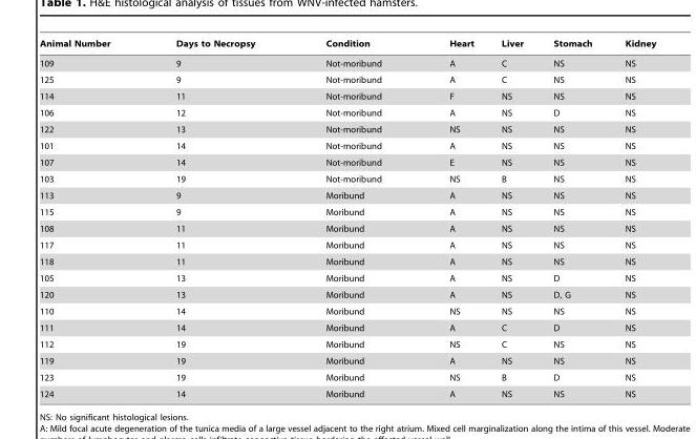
<table><thead><tr><td>Animal Number</td><td>Days to Necropsy</td><td>Condition</td><td>Heart</td><td>Liver</td><td>Stomach</td><td>Kidney</td></tr></thead><tbody><tr><td>109</td><td>9</td><td>Not-moribund</td><td>A</td><td>C</td><td>NS</td><td>NS</td></tr><tr><td>125</td><td>9</td><td>Not-moribund</td><td>A</td><td>C</td><td>NS</td><td>NS</td></tr><tr><td>114</td><td>11</td><td>Not-moribund</td><td>F</td><td>NS</td><td>NS</td><td>NS</td></tr><tr><td>106</td><td>12</td><td>Not-moribund</td><td>A</td><td>NS</td><td>D</td><td>NS</td></tr><tr><td>122</td><td>13</td><td>Not-moribund</td><td>NS</td><td>NS</td><td>NS</td><td>NS</td></tr><tr><td>101</td><td>14</td><td>Not-moribund</td><td>A</td><td>NS</td><td>NS</td><td>NS</td></tr><tr><td>107</td><td>14</td><td>Not-moribund</td><td>E</td><td>NS</td><td>NS</td><td>NS</td></tr><tr><td>103</td><td>19</td><td>Not-moribund</td><td>NS</td><td>B</td><td>NS</td><td>NS</td></tr><tr><td>113</td><td>9</td><td>Moribund</td><td>A</td><td>NS</td><td>NS</td><td>NS</td></tr><tr><td>115</td><td>9</td><td>Moribund</td><td>A</td><td>NS</td><td>NS</td><td>NS</td></tr><tr><td>108</td><td>11</td><td>Moribund</td><td>A</td><td>NS</td><td>NS</td><td>NS</td></tr><tr><td>117</td><td>11</td><td>Moribund</td><td>A</td><td>NS</td><td>NS</td><td>NS</td></tr><tr><td>118</td><td>11</td><td>Moribund</td><td>A</td><td>NS</td><td>NS</td><td>NS</td></tr><tr><td>105</td><td>13</td><td>Moribund</td><td>A</td><td>NS</td><td>D</td><td>NS</td></tr><tr><td>120</td><td>13</td><td>Moribund</td><td>A</td><td>NS</td><td>D, G</td><td>NS</td></tr><tr><td>110</td><td>14</td><td>Moribund</td><td>NS</td><td>NS</td><td>NS</td><td>NS</td></tr><tr><td>111</td><td>14</td><td>Moribund</td><td>A</td><td>C</td><td>D</td><td>NS</td></tr><tr><td>112</td><td>19</td><td>Moribund</td><td>NS</td><td>C</td><td>NS</td><td>NS</td></tr><tr><td>119</td><td>19</td><td>Moribund</td><td>A</td><td>NS</td><td>NS</td><td>NS</td></tr><tr><td>123</td><td>19</td><td>Moribund</td><td>NS</td><td>B</td><td>D</td><td>NS</td></tr><tr><td>124</td><td>14</td><td>Moribund</td><td>A</td><td>NS</td><td>NS</td><td>NS</td></tr></tbody></table>